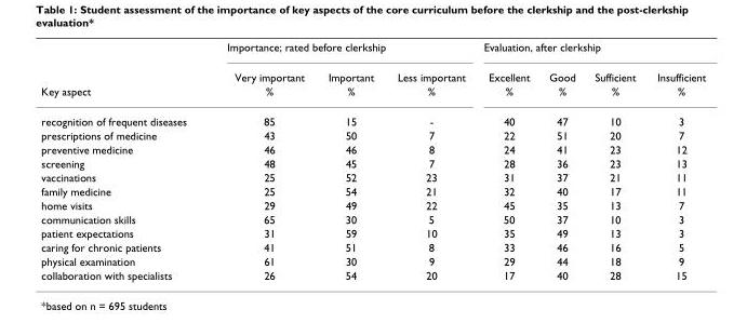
<table><thead><tr><td rowspan="2"></td><td colspan="3">Importance; rated before clerkship</td><td colspan="4">Evaluation, after clerkship</td></tr><tr><td>Very important</td><td>Important</td><td>Less important</td><td>Excellent</td><td>Good</td><td>Sufficient</td><td>Insufficient</td></tr></thead><tbody><tr><td>Key aspect</td><td>%</td><td>%</td><td>%</td><td>%</td><td>%</td><td>%</td><td>%</td></tr><tr><td>recognition of frequent diseases</td><td>85</td><td>15</td><td>-</td><td>40</td><td>47</td><td>10</td><td>3</td></tr><tr><td>prescriptions of medicine</td><td>43</td><td>50</td><td>7</td><td>22</td><td>51</td><td>20</td><td>7</td></tr><tr><td>preventive medicine</td><td>46</td><td>46</td><td>8</td><td>24</td><td>41</td><td>23</td><td>12</td></tr><tr><td>screening</td><td>48</td><td>45</td><td>7</td><td>28</td><td>36</td><td>23</td><td>13</td></tr><tr><td>vaccinations</td><td>25</td><td>52</td><td>23</td><td>31</td><td>37</td><td>21</td><td>11</td></tr><tr><td>family medicine</td><td>25</td><td>54</td><td>21</td><td>32</td><td>40</td><td>17</td><td>11</td></tr><tr><td>home visits</td><td>29</td><td>49</td><td>22</td><td>45</td><td>35</td><td>13</td><td>7</td></tr><tr><td>communication skills</td><td>65</td><td>30</td><td>5</td><td>50</td><td>37</td><td>10</td><td>3</td></tr><tr><td>patient expectations</td><td>31</td><td>59</td><td>10</td><td>35</td><td>49</td><td>13</td><td>3</td></tr><tr><td>caring for chronic patients</td><td>41</td><td>51</td><td>8</td><td>33</td><td>46</td><td>16</td><td>5</td></tr><tr><td>physical examination</td><td>61</td><td>30</td><td>9</td><td>29</td><td>44</td><td>18</td><td>9</td></tr><tr><td>collaboration with specialists</td><td>26</td><td>54</td><td>20</td><td>17</td><td>40</td><td>28</td><td>15</td></tr></tbody></table>